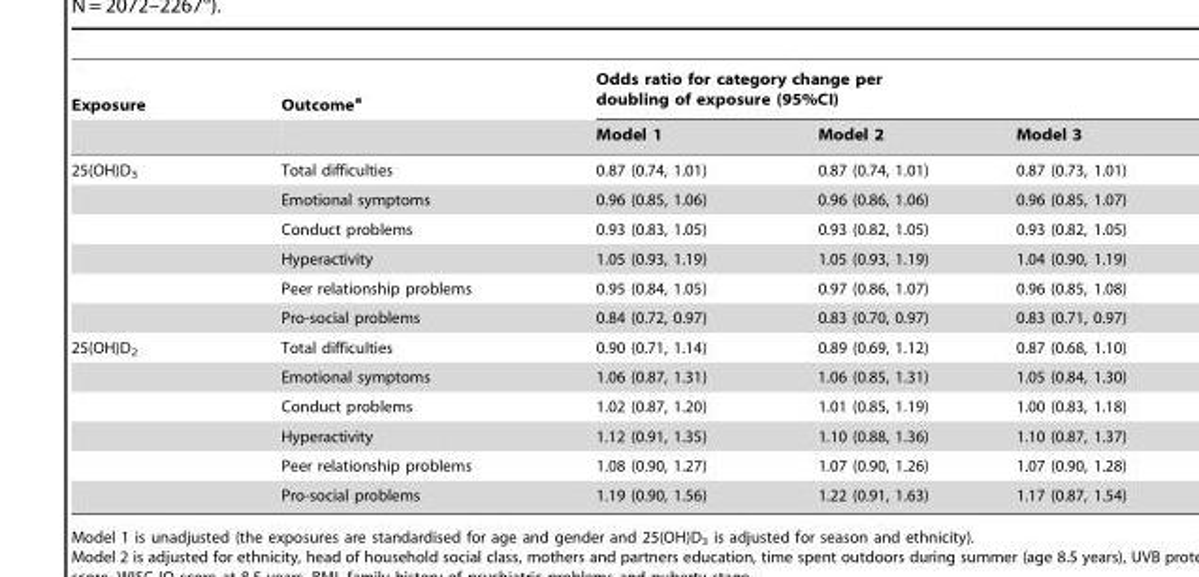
<table><thead><tr><td rowspan="2">Exposure</td><td rowspan="2">Outcome<sup>a</sup></td><td colspan="3">Odds ratio for category change per doubling of exposure (95%CI)</td></tr><tr><td>Model 1</td><td>Model 2</td><td>Model 3</td></tr></thead><tbody><tr><td rowspan="6">25(OH)D<sub>3</sub></td><td>Total difficulties</td><td>0.87 (0.74, 1.01)</td><td>0.87 (0.74, 1.01)</td><td>0.87 (0.73, 1.01)</td></tr><tr><td>Emotional symptoms</td><td>0.96 (0.85, 1.06)</td><td>0.96 (0.86, 1.06)</td><td>0.96 (0.85, 1.07)</td></tr><tr><td>Conduct problems</td><td>0.93 (0.83, 1.05)</td><td>0.93 (0.82, 1.05)</td><td>0.93 (0.82, 1.05)</td></tr><tr><td>Hyperactivity</td><td>1.05 (0.93, 1.19)</td><td>1.05 (0.93, 1.19)</td><td>1.04 (0.90, 1.19)</td></tr><tr><td>Peer relationship problems</td><td>0.95 (0.84, 1.05)</td><td>0.97 (0.86, 1.07)</td><td>0.96 (0.85, 1.08)</td></tr><tr><td>Pro-social problems</td><td>0.84 (0.72, 0.97)</td><td>0.83 (0.70, 0.97)</td><td>0.83 (0.71, 0.97)</td></tr><tr><td rowspan="6">25(OH)D<sub>2</sub></td><td>Total difficulties</td><td>0.90 (0.71, 1.14)</td><td>0.89 (0.69, 1.12)</td><td>0.87 (0.68, 1.10)</td></tr><tr><td>Emotional symptoms</td><td>1.06 (0.87, 1.31)</td><td>1.06 (0.85, 1.31)</td><td>1.05 (0.84, 1.30)</td></tr><tr><td>Conduct problems</td><td>1.02 (0.87, 1.20)</td><td>1.01 (0.85, 1.19)</td><td>1.00 (0.83, 1.18)</td></tr><tr><td>Hyperactivity</td><td>1.12 (0.91, 1.35)</td><td>1.10 (0.88, 1.36)</td><td>1.10 (0.87, 1.37)</td></tr><tr><td>Peer relationship problems</td><td>1.08 (0.90, 1.27)</td><td>1.07 (0.90, 1.26)</td><td>1.07 (0.90, 1.28)</td></tr><tr><td>Pro-social problems</td><td>1.19 (0.90, 1.56)</td><td>1.22 (0.91, 1.63)</td><td>1.17 (0.87, 1.54)</td></tr></tbody></table>